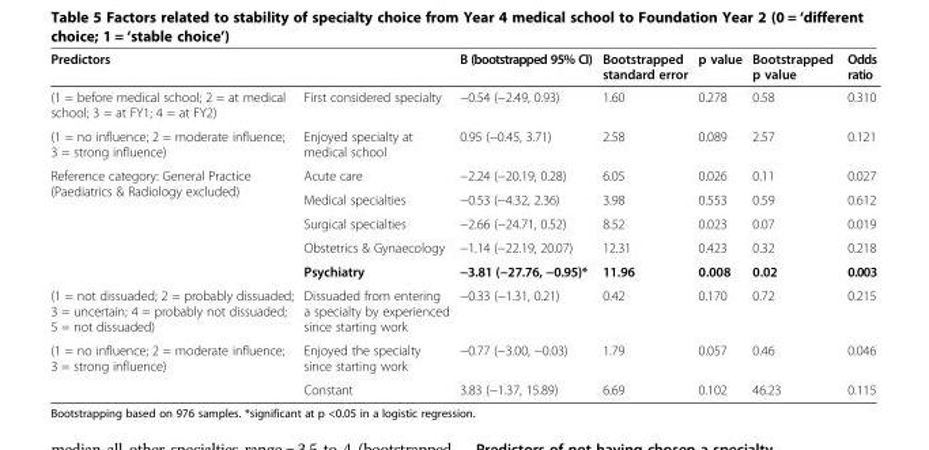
<table><thead><tr><td colspan="2">Predictors</td><td rowspan="2">B (bootstrapped 95% CI) −0.54 (−2.49, 0.93)</td><td rowspan="2">Bootstrapped standard error 1.60</td><td rowspan="2">p value 0.278</td><td rowspan="2">Bootstrapped p value 0.58</td><td rowspan="2">Odds ratio 0.310</td></tr><tr><td>(1 = before medical school; 2 = at medical school; 3 = at FY1; 4 = at FY2)</td><td>First considered specialty</td></tr></thead><tbody><tr><td>(1 = no influence; 2 = moderate influence; 3 = strong influence)</td><td>Enjoyed specialty at medical school</td><td>0.95 (−0.45, 3.71)</td><td>2.58</td><td>0.089</td><td>2.57</td><td>0.121</td></tr><tr><td rowspan="5">Reference category: General Practice (Paediatrics &amp; Radiology excluded)</td><td>Acute care</td><td>−2.24 (−20.19, 0.28)</td><td>6.05</td><td>0.026</td><td>0.11</td><td>0.027</td></tr><tr><td>Medical specialties</td><td>−0.53 (−4.32, 2.36)</td><td>3.98</td><td>0.553</td><td>0.59</td><td>0.612</td></tr><tr><td>Surgical specialties</td><td>−2.66 (−24.71, 0.52)</td><td>8.52</td><td>0.023</td><td>0.07</td><td>0.019</td></tr><tr><td>Obstetrics &amp; Gynaecology</td><td>−1.14 (−22.19, 20.07)</td><td>12.31</td><td>0.423</td><td>0.32</td><td>0.218</td></tr><tr><td>Psychiatry</td><td>−3.81 (−27.76, −0.95)*</td><td>11.96</td><td>0.008</td><td>0.02</td><td>0.003</td></tr><tr><td>(1 = not dissuaded; 2 = probably dissuaded; 3 = uncertain; 4 = probably not dissuaded; 5 = not dissuaded)</td><td>Dissuaded from entering a specialty by experienced since starting work</td><td>−0.33 (−1.31, 0.21)</td><td>0.42</td><td>0.170</td><td>0.72</td><td>0.215</td></tr><tr><td rowspan="2">(1 = no influence; 2 = moderate influence; 3 = strong influence)</td><td>Enjoyed the specialty since starting work</td><td>−0.77 (−3.00, −0.03)</td><td>1.79</td><td>0.057</td><td>0.46</td><td>0.046</td></tr><tr><td>Constant</td><td>3.83 (−1.37, 15.89)</td><td>6.69</td><td>0.102</td><td>46.23</td><td>0.115</td></tr></tbody></table>